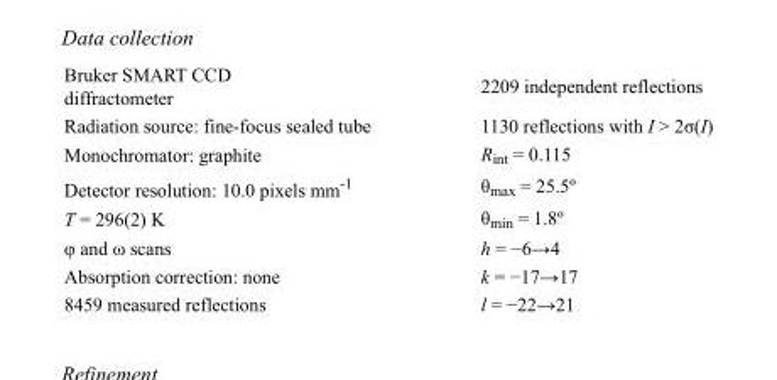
<table><tbody><tr><td>Bruker SMART CCD diffractometer</td><td>2209 independent reflections</td></tr><tr><td>Radiation source: fine-focus sealed tube</td><td>1130 reflections with I &gt; 2σ(I)</td></tr><tr><td>Monochromator: graphite</td><td>R<sub>int</sub> = 0.115</td></tr><tr><td>Detector resolution: 10.0 pixels mm<sup>-1</sup></td><td>θ<sub>max</sub> = 25.5º</td></tr><tr><td>T = 296(2) K</td><td>θ<sub>min</sub> = 1.8º</td></tr><tr><td>φ and ω scans</td><td>h = −6→4</td></tr><tr><td>Absorption correction: none</td><td>k = −17→17</td></tr><tr><td>8459 measured reflections</td><td>l = −22→21</td></tr></tbody></table>